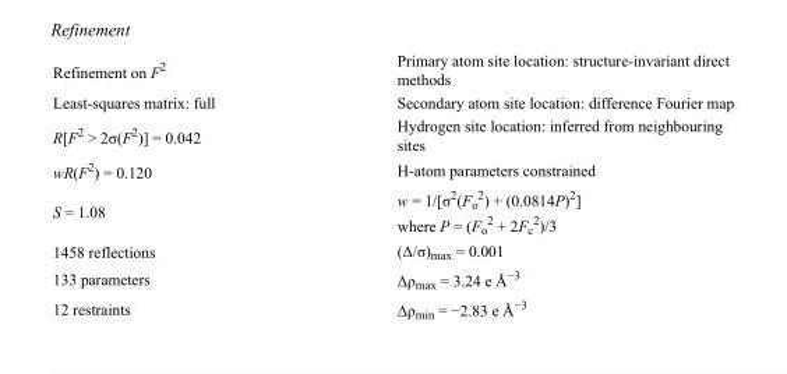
<table><tbody><tr><td>Refinement on F<sup>2</sup></td><td>Primary atom site location: structure-invariant direct methods</td></tr><tr><td>Least-squares matrix: full</td><td>Secondary atom site location: difference Fourier map</td></tr><tr><td>R[F<sup>2</sup> &gt; 2σ(F<sup>2</sup>)] = 0.042</td><td>Hydrogen site location: inferred from neighbouring sites</td></tr><tr><td>wR(F<sup>2</sup>) = 0.120</td><td>H-atom parameters constrained</td></tr><tr><td>S = 1.08</td><td>w = 1/[σ<sup>2</sup>(F<sub>o</sub> <sup>2</sup>) + (0.0814P)<sup>2</sup>] where P = (F<sub>o</sub> <sup>2</sup> + 2F<sub>c</sub> <sup>2</sup>)/3</td></tr><tr><td>1458 reflections</td><td>(Δ/σ)<sub>max</sub> = 0.001</td></tr><tr><td>133 parameters</td><td>Δρ<sub>max</sub> = 3.24 e Å<sup>−3</sup></td></tr><tr><td>12 restraints</td><td>Δρ<sub>min</sub> = −2.83 e Å<sup>−3</sup></td></tr></tbody></table>